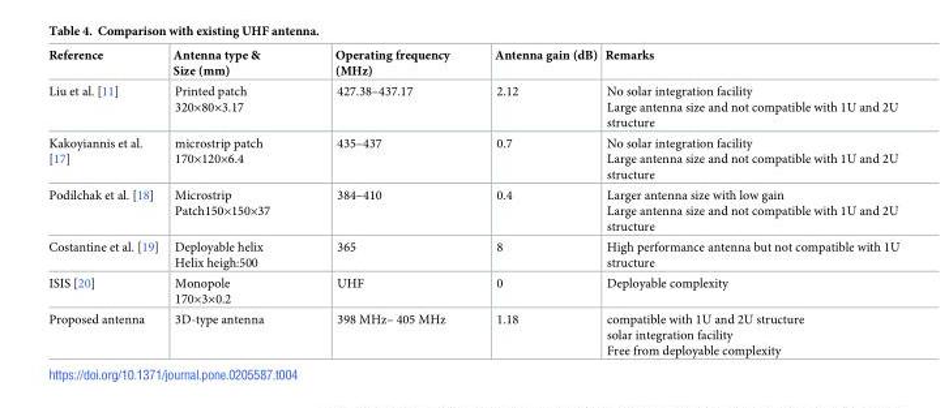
<table><thead><tr><td>Reference</td><td>Antenna type &amp; Size (mm)</td><td>Operating frequency (MHz)</td><td>Antenna gain (dB)</td><td>Remarks</td></tr></thead><tbody><tr><td>Liu et al. [11]</td><td>Printed patch 320×80×3.17</td><td>427.38–437.17</td><td>2.12</td><td>No solar integration facility Large antenna size and not compatible with 1U and 2U structure</td></tr><tr><td>Kakoyiannis et al. [17]</td><td>microstrip patch 170×120×6.4</td><td>435–437</td><td>0.7</td><td>No solar integration facility Large antenna size and not compatible with 1U and 2U structure</td></tr><tr><td>Podilchak et al. [18]</td><td>Microstrip Patch150×150×37</td><td>384–410</td><td>0.4</td><td>Larger antenna size with low gain Large antenna size and not compatible with 1U and 2U structure</td></tr><tr><td>Costantine et al. [19]</td><td>Deployable helix Helix heigh:500</td><td>365</td><td>8</td><td>High performance antenna but not compatible with 1U structure</td></tr><tr><td>ISIS [20]</td><td>Monopole 170×3×0.2</td><td>UHF</td><td>0</td><td>Deployable complexity</td></tr><tr><td>Proposed antenna</td><td>3D-type antenna</td><td>398 MHz– 405 MHz</td><td>1.18</td><td>compatible with 1U and 2U structure solar integration facility Free from deployable complexity</td></tr></tbody></table>